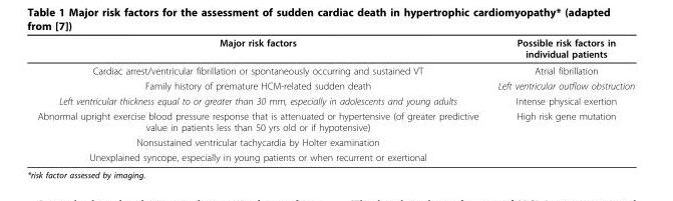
<table><thead><tr><td>Major risk factors</td><td>Possible risk factors in individual patients</td></tr></thead><tbody><tr><td>Cardiac arrest/ventricular fibrillation or spontaneously occurring and sustained VT</td><td>Atrial fibrillation</td></tr><tr><td>Family history of premature HCM-related sudden death</td><td>Left ventricular outflow obstruction</td></tr><tr><td>Left ventricular thickness equal to or greater than 30 mm, especially in adolescents and young adults</td><td>Intense physical exertion</td></tr><tr><td>Abnormal upright exercise blood pressure response that is attenuated or hypertensive (of greater predictive value in patients less than 50 yrs old or if hypotensive)</td><td>High risk gene mutation</td></tr><tr><td colspan="2">Nonsustained ventricular tachycardia by Holter examination</td></tr><tr><td>Unexplained syncope, especially in young patients or when recurrent or exertional</td><td></td></tr></tbody></table>